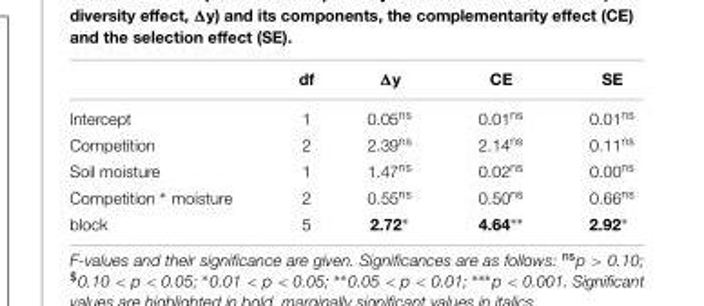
<table><thead><tr><td></td><td>df</td><td>Δy</td><td>CE</td><td>SE</td></tr></thead><tbody><tr><td>Intercept</td><td>1</td><td>0.05<sup>ns</sup></td><td>0.01<sup>ns</sup></td><td>0.01<sup>ns</sup></td></tr><tr><td>Competition</td><td>2</td><td>2.39<sup>ns</sup></td><td>2.14<sup>ns</sup></td><td>0.11<sup>ns</sup></td></tr><tr><td>Soil moisture</td><td>1</td><td>1.47<sup>ns</sup></td><td>0.02<sup>ns</sup></td><td>0.00<sup>ns</sup></td></tr><tr><td>Competition ∗ moisture</td><td>2</td><td>0.55<sup>ns</sup></td><td>0.50<sup>ns</sup></td><td>0.66<sup>ns</sup></td></tr><tr><td>block</td><td>5</td><td>2.72∗</td><td>4.64∗∗</td><td>2.92∗</td></tr></tbody></table>